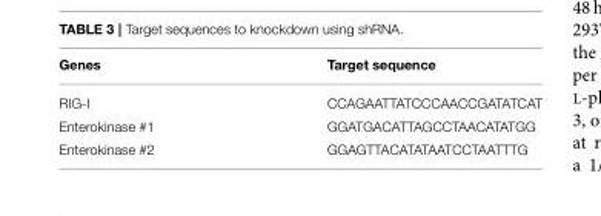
<table><thead><tr><td>Genes</td><td>Target sequence</td></tr></thead><tbody><tr><td>RIG-I</td><td>CCAGAATTATCCCAACCGATATCAT</td></tr><tr><td>Enterokinase #1</td><td>GGATGACATTAGCCTAACATATGG</td></tr><tr><td>Enterokinase #2</td><td>GGAGTTACATATAATCCTAATTTG</td></tr></tbody></table>